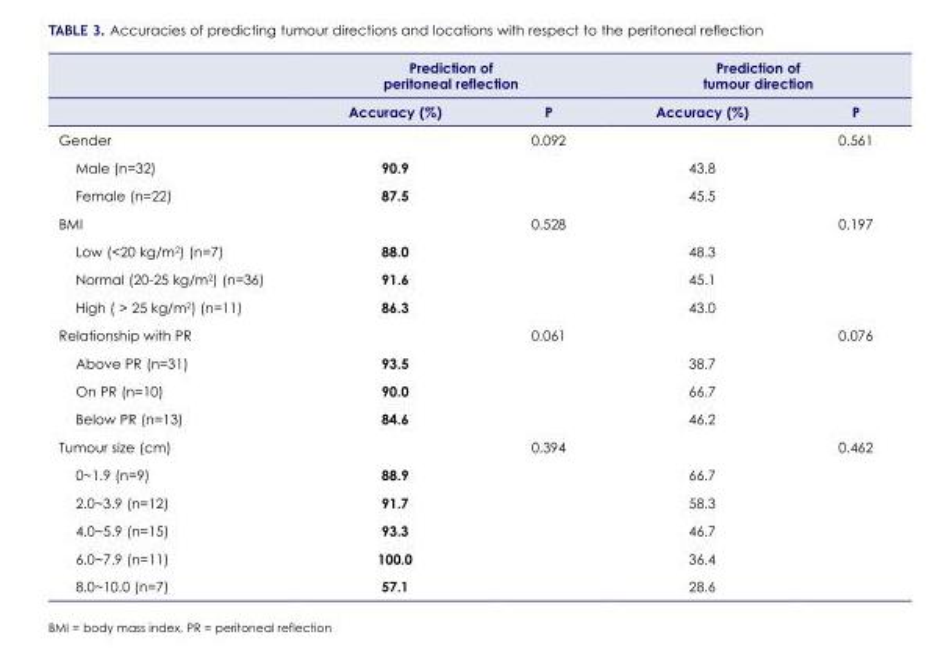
<table><thead><tr><td rowspan="2"></td><td colspan="2">Prediction of peritoneal reflection</td><td colspan="2">Prediction of tumour direction</td></tr><tr><td>Accuracy (%)</td><td>P</td><td>Accuracy (%)</td><td>P</td></tr></thead><tbody><tr><td>Gender</td><td></td><td>0.092</td><td></td><td>0.561</td></tr><tr><td>Male (n=32)</td><td>90.9</td><td></td><td>43.8</td><td></td></tr><tr><td>Female (n=22)</td><td>87.5</td><td></td><td>45.5</td><td></td></tr><tr><td>BMI</td><td></td><td>0.528</td><td></td><td>0.197</td></tr><tr><td>Low (&lt;20 kg/m<sup>2</sup>) (n=7)</td><td>88.0</td><td></td><td>48.3</td><td></td></tr><tr><td>Normal (20-25 kg/m<sup>2</sup>) (n=36)</td><td>91.6</td><td></td><td>45.1</td><td></td></tr><tr><td>High ( &gt; 25 kg/m<sup>2</sup>) (n=11)</td><td>86.3</td><td></td><td>43.0</td><td></td></tr><tr><td>Relationship with PR</td><td></td><td>0.061</td><td></td><td>0.076</td></tr><tr><td>Above PR (n=31)</td><td>93.5</td><td></td><td>38.7</td><td></td></tr><tr><td>On PR (n=10)</td><td>90.0</td><td></td><td>66.7</td><td></td></tr><tr><td>Below PR (n=13)</td><td>84.6</td><td></td><td>46.2</td><td></td></tr><tr><td>Tumour size (cm)</td><td></td><td>0.394</td><td></td><td>0.462</td></tr><tr><td>0~1.9 (n=9)</td><td>88.9</td><td></td><td>66.7</td><td></td></tr><tr><td>2.0~3.9 (n=12)</td><td>91.7</td><td></td><td>58.3</td><td></td></tr><tr><td>4.0~5.9 (n=15)</td><td>93.3</td><td></td><td>46.7</td><td></td></tr><tr><td>6.0~7.9 (n=11)</td><td>100.0</td><td></td><td>36.4</td><td></td></tr><tr><td>8.0~10.0 (n=7)</td><td>57.1</td><td></td><td>28.6</td><td></td></tr></tbody></table>